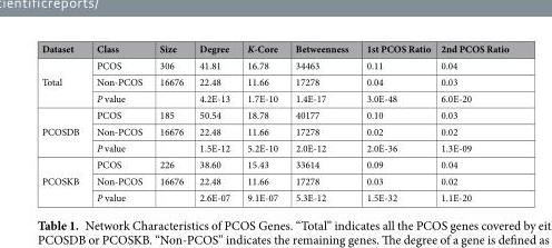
<table><thead><tr><td>Dataset</td><td>Class</td><td>Size</td><td>Degree</td><td>K-Core</td><td>Betweenness</td><td>1st PCOS Ratio</td><td>2nd PCOS Ratio</td></tr></thead><tbody><tr><td rowspan="3">Total</td><td>PCOS</td><td>306</td><td>41.81</td><td>16.78</td><td>34463</td><td>0.11</td><td>0.04</td></tr><tr><td>Non-PCOS</td><td>16676</td><td>22.48</td><td>11.66</td><td>17278</td><td>0.04</td><td>0.03</td></tr><tr><td>P value</td><td></td><td>4.2E-13</td><td>1.7E-10</td><td>1.4E-17</td><td>3.0E-48</td><td>6.0E-20</td></tr><tr><td rowspan="3">PCOSDB</td><td>PCOS</td><td>185</td><td>50.54</td><td>18.78</td><td>40177</td><td>0.10</td><td>0.03</td></tr><tr><td>Non-PCOS</td><td>16676</td><td>22.48</td><td>11.66</td><td>17278</td><td>0.02</td><td>0.02</td></tr><tr><td>P value</td><td></td><td>1.5E-12</td><td>5.2E-10</td><td>2.0E-12</td><td>2.0E-36</td><td>1.3E-09</td></tr><tr><td rowspan="3">PCOSKB</td><td>PCOS</td><td>226</td><td>38.60</td><td>15.43</td><td>33614</td><td>0.09</td><td>0.04</td></tr><tr><td>Non-PCOS</td><td>16676</td><td>22.48</td><td>11.66</td><td>17278</td><td>0.03</td><td>0.02</td></tr><tr><td>P value</td><td></td><td>2.6E-07</td><td>9.1E-07</td><td>5.3E-12</td><td>1.5E-32</td><td>1.1E-20</td></tr></tbody></table>